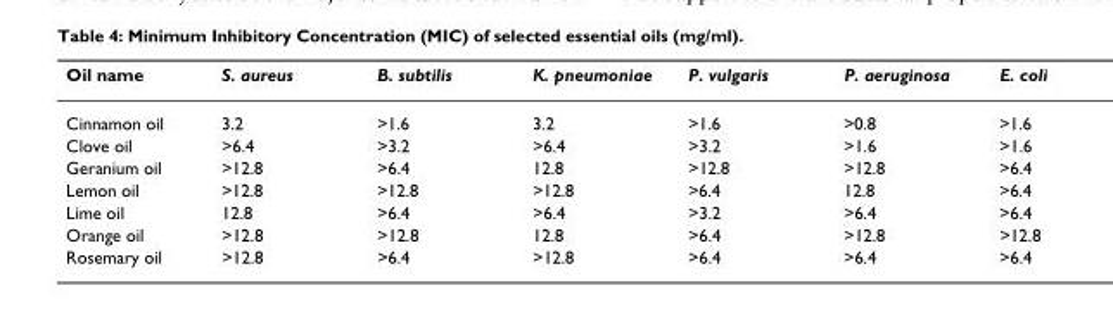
<table><thead><tr><td>Oil name</td><td>S. aureus</td><td>B. subtilis</td><td>K. pneumoniae</td><td>P. vulgaris</td><td>P. aeruginosa</td><td>E. coli</td></tr></thead><tbody><tr><td>Cinnamon oil</td><td>3.2</td><td>&gt;1.6</td><td>3.2</td><td>&gt;1.6</td><td>&gt;0.8</td><td>&gt;1.6</td></tr><tr><td>Clove oil</td><td>&gt;6.4</td><td>&gt;3.2</td><td>&gt;6.4</td><td>&gt;3.2</td><td>&gt;1.6</td><td>&gt;1.6</td></tr><tr><td>Geranium oil</td><td>&gt;12.8</td><td>&gt;6.4</td><td>12.8</td><td>&gt;12.8</td><td>&gt;12.8</td><td>&gt;6.4</td></tr><tr><td>Lemon oil</td><td>&gt;12.8</td><td>&gt;12.8</td><td>&gt;12.8</td><td>&gt;6.4</td><td>12.8</td><td>&gt;6.4</td></tr><tr><td>Lime oil</td><td>12.8</td><td>&gt;6.4</td><td>&gt;6.4</td><td>&gt;3.2</td><td>&gt;6.4</td><td>&gt;6.4</td></tr><tr><td>Orange oil</td><td>&gt;12.8</td><td>&gt;12.8</td><td>12.8</td><td>&gt;6.4</td><td>&gt;12.8</td><td>&gt;12.8</td></tr><tr><td>Rosemary oil</td><td>&gt;12.8</td><td>&gt;6.4</td><td>&gt;12.8</td><td>&gt;6.4</td><td>&gt;6.4</td><td>&gt;6.4</td></tr></tbody></table>